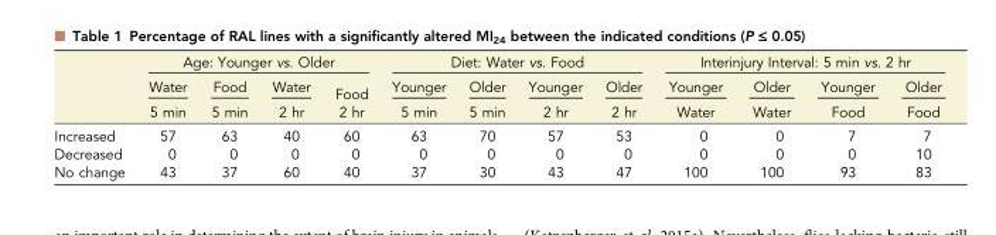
<table><thead><tr><td rowspan="3"></td><td colspan="4">Age: Younger vs. Older</td><td colspan="4">Diet: Water vs. Food</td><td colspan="4">Interinjury Interval: 5 min vs. 2 hr</td></tr><tr><td rowspan="2">Water 5 min</td><td rowspan="2">Food 5 min</td><td rowspan="2">Water 2 hr</td><td rowspan="2">Food 2 hr</td><td rowspan="2">Younger 5 min</td><td rowspan="2">Older 5 min</td><td rowspan="2">Younger 2 hr</td><td rowspan="2">Older 2 hr</td><td rowspan="2">Younger Water</td><td rowspan="2">Older Water</td><td rowspan="2">Younger Food</td><td rowspan="2">Older Food</td></tr><tr></tr></thead><tbody><tr><td>Increased</td><td>57</td><td>63</td><td>40</td><td>60</td><td>63</td><td>70</td><td>57</td><td>53</td><td>0</td><td>0</td><td>7</td><td>7</td></tr><tr><td>Decreased</td><td>0</td><td>0</td><td>0</td><td>0</td><td>0</td><td>0</td><td>0</td><td>0</td><td>0</td><td>0</td><td>0</td><td>10</td></tr><tr><td>No change</td><td>43</td><td>37</td><td>60</td><td>40</td><td>37</td><td>30</td><td>43</td><td>47</td><td>100</td><td>100</td><td>93</td><td>83</td></tr></tbody></table>